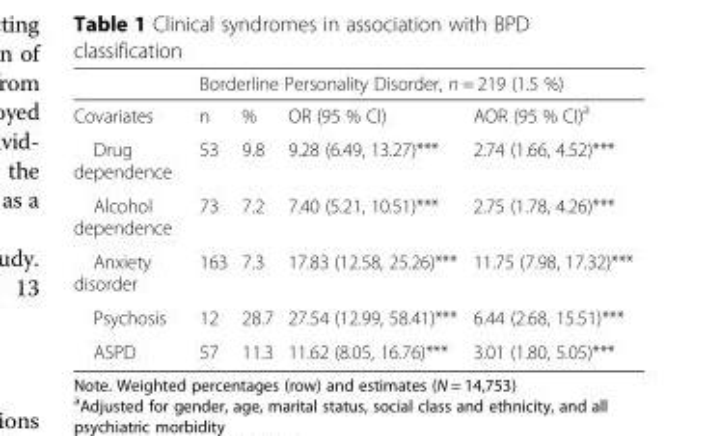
<table><thead><tr><td rowspan="2">Covariates</td><td colspan="4">Borderline Personality Disorder, n = 219 (1.5 %)</td></tr><tr><td>n</td><td>%</td><td>OR (95 % CI)</td><td>AOR (95 % CI)<sup>a</sup></td></tr></thead><tbody><tr><td>Drug dependence</td><td>53</td><td>9.8</td><td>9.28 (6.49, 13.27)***</td><td>2.74 (1.66, 4.52)***</td></tr><tr><td>Alcohol dependence</td><td>73</td><td>7.2</td><td>7.40 (5.21, 10.51)***</td><td>2.75 (1.78, 4.26)***</td></tr><tr><td>Anxiety disorder</td><td>163</td><td>7.3</td><td>17.83 (12.58, 25.26)***</td><td>11.75 (7.98, 17.32)***</td></tr><tr><td>Psychosis</td><td>12</td><td>28.7</td><td>27.54 (12.99, 58.41)***</td><td>6.44 (2.68, 15.51)***</td></tr><tr><td>ASPD</td><td>57</td><td>11.3</td><td>11.62 (8.05, 16.76)***</td><td>3.01 (1.80, 5.05)***</td></tr></tbody></table>